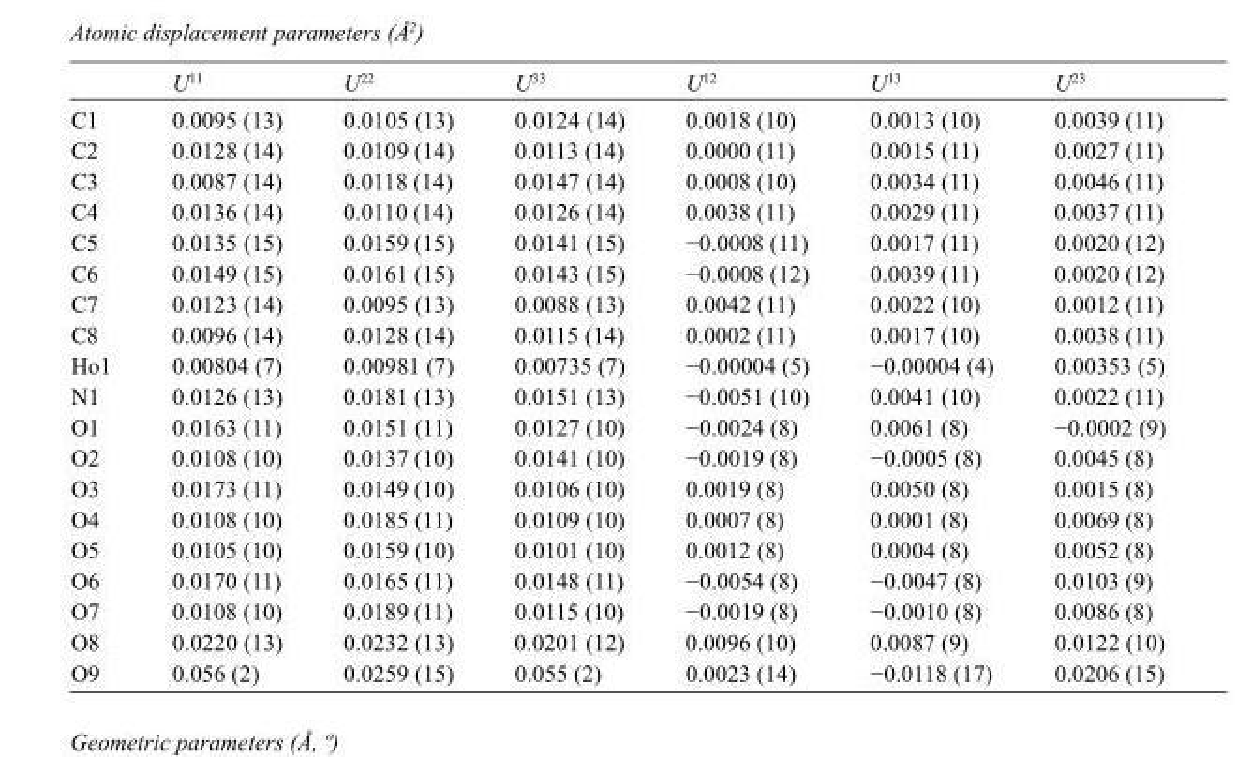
<table><thead><tr><td></td><td>U<sup>11</sup></td><td>U<sup>22</sup></td><td>U<sup>33</sup></td><td>U<sup>12</sup></td><td>U<sup>13</sup></td><td>U<sup>23</sup></td></tr></thead><tbody><tr><td>C1</td><td>0.0095 (13)</td><td>0.0105 (13)</td><td>0.0124 (14)</td><td>0.0018 (10)</td><td>0.0013 (10)</td><td>0.0039 (11)</td></tr><tr><td>C2</td><td>0.0128 (14)</td><td>0.0109 (14)</td><td>0.0113 (14)</td><td>0.0000 (11)</td><td>0.0015 (11)</td><td>0.0027 (11)</td></tr><tr><td>C3</td><td>0.0087 (14)</td><td>0.0118 (14)</td><td>0.0147 (14)</td><td>0.0008 (10)</td><td>0.0034 (11)</td><td>0.0046 (11)</td></tr><tr><td>C4</td><td>0.0136 (14)</td><td>0.0110 (14)</td><td>0.0126 (14)</td><td>0.0038 (11)</td><td>0.0029 (11)</td><td>0.0037 (11)</td></tr><tr><td>C5</td><td>0.0135 (15)</td><td>0.0159 (15)</td><td>0.0141 (15)</td><td>−0.0008 (11)</td><td>0.0017 (11)</td><td>0.0020 (12)</td></tr><tr><td>C6</td><td>0.0149 (15)</td><td>0.0161 (15)</td><td>0.0143 (15)</td><td>−0.0008 (12)</td><td>0.0039 (11)</td><td>0.0020 (12)</td></tr><tr><td>C7</td><td>0.0123 (14)</td><td>0.0095 (13)</td><td>0.0088 (13)</td><td>0.0042 (11)</td><td>0.0022 (10)</td><td>0.0012 (11)</td></tr><tr><td>C8</td><td>0.0096 (14)</td><td>0.0128 (14)</td><td>0.0115 (14)</td><td>0.0002 (11)</td><td>0.0017 (10)</td><td>0.0038 (11)</td></tr><tr><td>Ho1</td><td>0.00804 (7)</td><td>0.00981 (7)</td><td>0.00735 (7)</td><td>−0.00004 (5)</td><td>−0.00004 (4)</td><td>0.00353 (5)</td></tr><tr><td>N1</td><td>0.0126 (13)</td><td>0.0181 (13)</td><td>0.0151 (13)</td><td>−0.0051 (10)</td><td>0.0041 (10)</td><td>0.0022 (11)</td></tr><tr><td>O1</td><td>0.0163 (11)</td><td>0.0151 (11)</td><td>0.0127 (10)</td><td>−0.0024 (8)</td><td>0.0061 (8)</td><td>−0.0002 (9)</td></tr><tr><td>O2</td><td>0.0108 (10)</td><td>0.0137 (10)</td><td>0.0141 (10)</td><td>−0.0019 (8)</td><td>−0.0005 (8)</td><td>0.0045 (8)</td></tr><tr><td>O3</td><td>0.0173 (11)</td><td>0.0149 (10)</td><td>0.0106 (10)</td><td>0.0019 (8)</td><td>0.0050 (8)</td><td>0.0015 (8)</td></tr><tr><td>O4</td><td>0.0108 (10)</td><td>0.0185 (11)</td><td>0.0109 (10)</td><td>0.0007 (8)</td><td>0.0001 (8)</td><td>0.0069 (8)</td></tr><tr><td>O5</td><td>0.0105 (10)</td><td>0.0159 (10)</td><td>0.0101 (10)</td><td>0.0012 (8)</td><td>0.0004 (8)</td><td>0.0052 (8)</td></tr><tr><td>O6</td><td>0.0170 (11)</td><td>0.0165 (11)</td><td>0.0148 (11)</td><td>−0.0054 (8)</td><td>−0.0047 (8)</td><td>0.0103 (9)</td></tr><tr><td>O7</td><td>0.0108 (10)</td><td>0.0189 (11)</td><td>0.0115 (10)</td><td>−0.0019 (8)</td><td>−0.0010 (8)</td><td>0.0086 (8)</td></tr><tr><td>O8</td><td>0.0220 (13)</td><td>0.0232 (13)</td><td>0.0201 (12)</td><td>0.0096 (10)</td><td>0.0087 (9)</td><td>0.0122 (10)</td></tr><tr><td>O9</td><td>0.056 (2)</td><td>0.0259 (15)</td><td>0.055 (2)</td><td>0.0023 (14)</td><td>−0.0118 (17)</td><td>0.0206 (15)</td></tr></tbody></table>